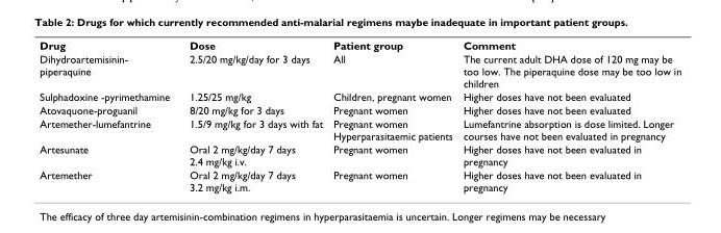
<table><tbody><tr><td>Drug</td><td>Dose</td><td>Patient group</td><td>Comment</td></tr><tr><td>Dihydroartemisinin- piperaquine</td><td>2.5/20 mg/kg/day for 3 days</td><td>All</td><td>The current adult DHA dose of 120 mg may be too low. The piperaquine dose may be too low in children</td></tr><tr><td>Sulphadoxine -pyrimethamine</td><td>1.25/25 mg/kg</td><td>Children, pregnant women</td><td>Higher doses have not been evaluated</td></tr><tr><td>Atovaquone-proguanil</td><td>8/20 mg/kg for 3 days</td><td>Pregnant women</td><td>Higher doses have not been evaluated</td></tr><tr><td>Artemether-lumefantrine</td><td>1.5/9 mg/kg for 3 days with fat</td><td>Pregnant women Hyperparasitaemic patients</td><td>Lumefantrine absorption is dose limited. Longer courses have not been evaluated in pregnancy</td></tr><tr><td>Artesunate</td><td>Oral 2 mg/kg/day 7 days 2.4 mg/kg i.v.</td><td>Pregnant women</td><td>Higher doses have not been evaluated in pregnancy</td></tr><tr><td>Artemether</td><td>Oral 2 mg/kg/day 7 days 3.2 mg/kg i.m.</td><td>Pregnant women</td><td>Higher doses have not been evaluated in pregnancy</td></tr></tbody></table>